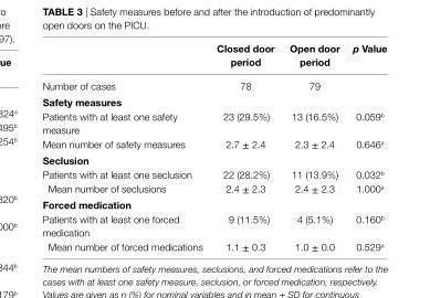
<table><thead><tr><td></td><td>closed door period</td><td>Open door period</td><td>p Value</td></tr></thead><tbody><tr><td>Number of cases</td><td>78</td><td>79</td><td></td></tr><tr><td colspan="4">safety measures</td></tr><tr><td>Patients with at least one safety measure</td><td>23 (29.5%)</td><td>13 (16.5%)</td><td>0.059<sup>b</sup></td></tr><tr><td>Mean number of safety measures</td><td>2.7 ± 2.4</td><td>2.3 ± 2.4</td><td>0.646<sup>a</sup></td></tr><tr><td colspan="4">seclusion</td></tr><tr><td>Patients with at least one seclusion</td><td>22 (28.2%)</td><td>11 (13.9%)</td><td>0.032<sup>b</sup></td></tr><tr><td>Mean number of seclusions</td><td>2.4 ± 2.3</td><td>2.4 ± 2.3</td><td>1.000<sup>a</sup></td></tr><tr><td colspan="4">Forced medication</td></tr><tr><td>Patients with at least one forced medication</td><td>9 (11.5%)</td><td>4 (5.1%)</td><td>0.160<sup>b</sup></td></tr><tr><td>Mean number of forced medications</td><td>1.1 ± 0.3</td><td>1.0 ± 0.0</td><td>0.529<sup>a</sup></td></tr></tbody></table>